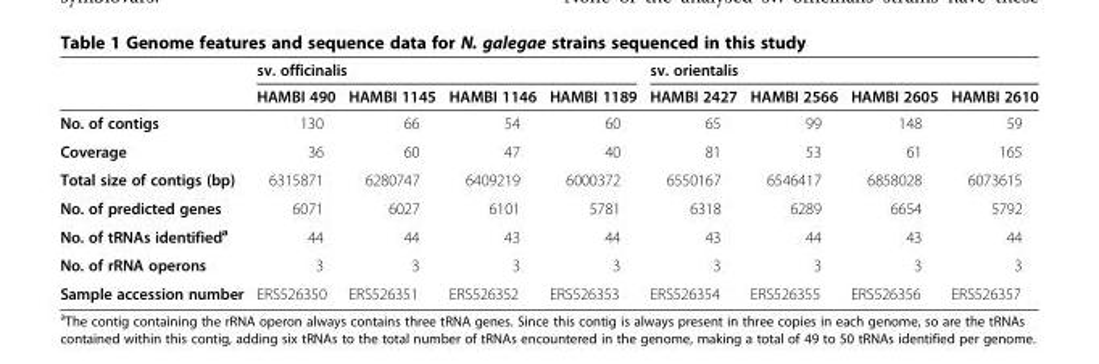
<table><thead><tr><td rowspan="2"></td><td colspan="4">sv. officinalis</td><td colspan="4">sv. orientalis</td></tr><tr><td>HAMBI 490</td><td>HAMBI 1145</td><td>HAMBI 1146</td><td>HAMBI 1189</td><td>HAMBI 2427</td><td>HAMBI 2566</td><td>HAMBI 2605</td><td>HAMBI 2610</td></tr></thead><tbody><tr><td>No. of contigs</td><td>130</td><td>66</td><td>54</td><td>60</td><td>65</td><td>99</td><td>148</td><td>59</td></tr><tr><td>Coverage</td><td>36</td><td>60</td><td>47</td><td>40</td><td>81</td><td>53</td><td>61</td><td>165</td></tr><tr><td>Total size of contigs (bp)</td><td>6315871</td><td>6280747</td><td>6409219</td><td>6000372</td><td>6550167</td><td>6546417</td><td>6858028</td><td>6073615</td></tr><tr><td>No. of predicted genes</td><td>6071</td><td>6027</td><td>6101</td><td>5781</td><td>6318</td><td>6289</td><td>6654</td><td>5792</td></tr><tr><td>No. of tRNAs identified<sup>a</sup></td><td>44</td><td>44</td><td>43</td><td>44</td><td>43</td><td>44</td><td>43</td><td>44</td></tr><tr><td>No. of rRNA operons</td><td>3</td><td>3</td><td>3</td><td>3</td><td>3</td><td>3</td><td>3</td><td>3</td></tr><tr><td>Sample accession number</td><td>ERS526350</td><td>ERS526351</td><td>ERS526352</td><td>ERS526353</td><td>ERS526354</td><td>ERS526355</td><td>ERS526356</td><td>ERS526357</td></tr></tbody></table>